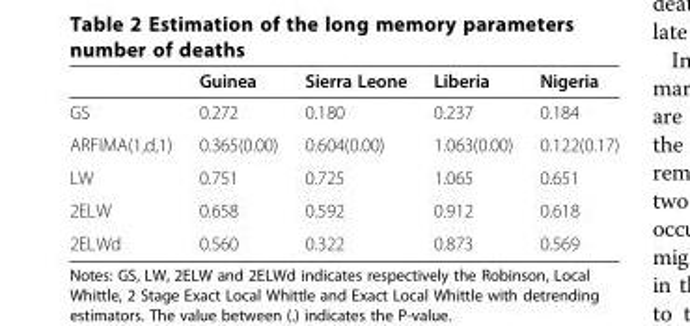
<table><thead><tr><td></td><td>Guinea</td><td>Sierra Leone</td><td>Liberia</td><td>Nigeria</td></tr></thead><tbody><tr><td>GS</td><td>0.272</td><td>0.180</td><td>0.237</td><td>0.184</td></tr><tr><td>ARFIMA(1,d,1)</td><td>0.365(0.00)</td><td>0.604(0.00)</td><td>1.063(0.00)</td><td>0.122(0.17)</td></tr><tr><td>LW</td><td>0.751</td><td>0.725</td><td>1.065</td><td>0.651</td></tr><tr><td>2ELW</td><td>0.658</td><td>0.592</td><td>0.912</td><td>0.618</td></tr><tr><td>2ELWd</td><td>0.560</td><td>0.322</td><td>0.873</td><td>0.569</td></tr></tbody></table>